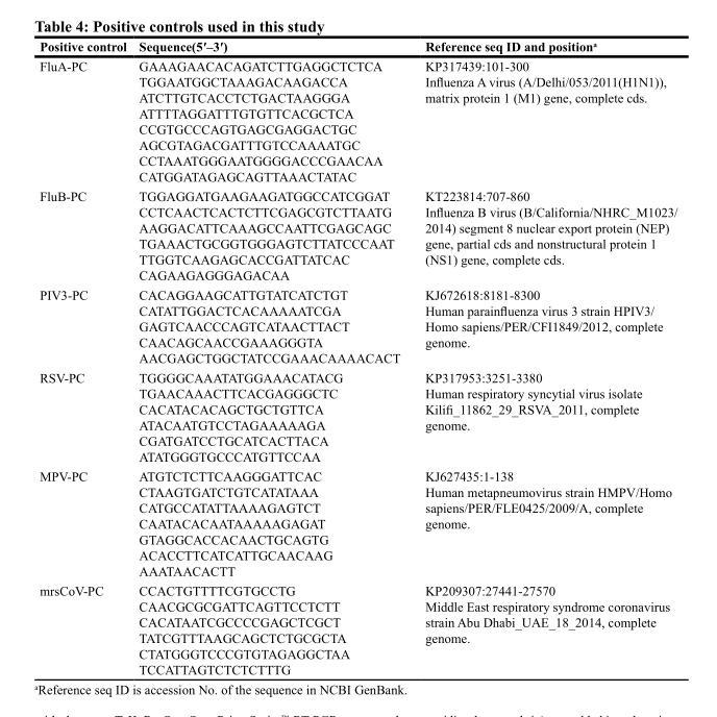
<table><thead><tr><td>Positive control</td><td>Sequence(5′–3′)</td><td>Reference seq ID and position<sup>a</sup></td></tr></thead><tbody><tr><td>FluA-PC</td><td>GAAAGAACACAGATCTTGAGGCTCTCA TGGAATGGCTAAAGACAAGACCA ATCTTGTCACCTCTGACTAAGGGA ATTTTAGGATTTGTGTTCACGCTCA CCGTGCCCAGTGAGCGAGGACTGC AGCGTAGACGATTTGTCCAAAATGC CCTAAATGGGAATGGGGACCCGAACAA CATGGATAGAGCAGTTAAACTATAC</td><td>KP317439:101-300 Influenza A virus (A/Delhi/053/2011(H1N1)), matrix protein 1 (M1) gene, complete cds.</td></tr><tr><td>FluB-PC</td><td>TGGAGGATGAAGAAGATGGCCATCGGAT CCTCAACTCACTCTTCGAGCGTCTTAATG AAGGACATTCAAAGCCAATTCGAGCAGC TGAAACTGCGGTGGGAGTCTTATCCCAAT TTGGTCAAGAGCACCGATTATCAC CAGAAGAGGGAGACAA</td><td>KT223814:707-860 Influenza B virus (B/California/NHRC_M1023/ 2014) segment 8 nuclear export protein (NEP) gene, partial cds and nonstructural protein 1 (NS1) gene, complete cds.</td></tr><tr><td>PIV3-PC</td><td>CACAGGAAGCATTGTATCATCTGT CATATTGGACTCACAAAAATCGA GAGTCAACCCAGTCATAACTTACT CAACAGCAACCGAAAGGGTA AACGAGCTGGCTATCCGAAACAAAACACT</td><td>KJ672618:8181-8300 Human parainfluenza virus 3 strain HPIV3/ Homo sapiens/PER/CFI1849/2012, complete genome.</td></tr><tr><td>RSV-PC</td><td>TGGGGCAAATATGGAAACATACG TGAACAAACTTCACGAGGGCTC CACATACACAGCTGCTGTTCA ATACAATGTCCTAGAAAAAGA CGATGATCCTGCATCACTTACA ATATGGGTGCCCATGTTCCAA</td><td>KP317953:3251-3380 Human respiratory syncytial virus isolate Kilifi_11862_29_RSVA_2011, complete genome.</td></tr><tr><td>MPV-PC</td><td>ATGTCTCTTCAAGGGATTCAC CTAAGTGATCTGTCATATAAA CATGCCATATTAAAAGAGTCT CAATACACAATAAAAAGAGAT GTAGGCACCACAACTGCAGTG ACACCTTCATCATTGCAACAAG AAATAACACTT</td><td>KJ627435:1-138 Human metapneumovirus strain HMPV/Homo sapiens/PER/FLE0425/2009/A, complete genome.</td></tr><tr><td>mrsCoV-PC</td><td>CCACTGTTTTCGTGCCTG CAACGCGCGATTCAGTTCCTCTT CACATAATCGCCCCGAGCTCGCT TATCGTTTAAGCAGCTCTGCGCTA CTATGGGTCCCGTGTAGAGGCTAA TCCATTAGTCTCTCTTTG</td><td>KP209307:27441-27570 Middle East respiratory syndrome coronavirus strain Abu Dhabi_UAE_18_2014, complete genome.</td></tr></tbody></table>